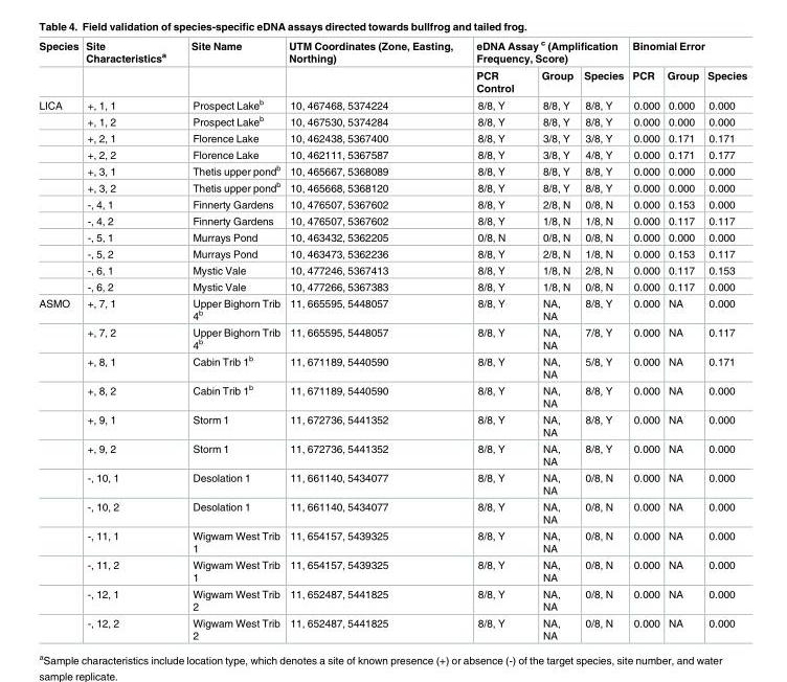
<table><thead><tr><td rowspan="2">Species</td><td rowspan="2">Site Characteristics<sup>a</sup></td><td rowspan="2">Site Name</td><td rowspan="2">UTM Coordinates (Zone, Easting, Northing)</td><td colspan="3">eDNA Assay <sup>c</sup> (Amplification Frequency, Score)</td><td colspan="3">Binomial Error</td></tr><tr><td>PCR Control</td><td>Group</td><td>Species</td><td>PCR</td><td>Group</td><td>Species</td></tr></thead><tbody><tr><td rowspan="12">LICA</td><td>+, 1, 1</td><td>Prospect Lake<sup>b</sup></td><td>10, 467468, 5374224</td><td>8/8, Y</td><td>8/8, Y</td><td>8/8, Y</td><td>0.000</td><td>0.000</td><td>0.000</td></tr><tr><td>+, 1, 2</td><td>Prospect Lake<sup>b</sup></td><td>10, 467530, 5374284</td><td>8/8, Y</td><td>8/8, Y</td><td>8/8, Y</td><td>0.000</td><td>0.000</td><td>0.000</td></tr><tr><td>+, 2, 1</td><td>Florence Lake</td><td>10, 462438, 5367400</td><td>8/8, Y</td><td>3/8, Y</td><td>3/8, Y</td><td>0.000</td><td>0.171</td><td>0.171</td></tr><tr><td>+, 2, 2</td><td>Florence Lake</td><td>10, 462111, 5367587</td><td>8/8, Y</td><td>3/8, Y</td><td>4/8, Y</td><td>0.000</td><td>0.171</td><td>0.177</td></tr><tr><td>+, 3, 1</td><td>Thetis upper pond<sup>b</sup></td><td>10, 465667, 5368089</td><td>8/8, Y</td><td>8/8, Y</td><td>8/8, Y</td><td>0.000</td><td>0.000</td><td>0.000</td></tr><tr><td>+, 3, 2</td><td>Thetis upper pond<sup>b</sup></td><td>10, 465668, 5368120</td><td>8/8, Y</td><td>8/8, Y</td><td>8/8, Y</td><td>0.000</td><td>0.000</td><td>0.000</td></tr><tr><td>-, 4, 1</td><td>Finnerty Gardens</td><td>10, 476507, 5367602</td><td>8/8, Y</td><td>2/8, N</td><td>0/8, N</td><td>0.000</td><td>0.153</td><td>0.000</td></tr><tr><td>-, 4, 2</td><td>Finnerty Gardens</td><td>10, 476507, 5367602</td><td>8/8, Y</td><td>1/8, N</td><td>1/8, N</td><td>0.000</td><td>0.117</td><td>0.117</td></tr><tr><td>-, 5, 1</td><td>Murrays Pond</td><td>10, 463432, 5362205</td><td>0/8, N</td><td>0/8, N</td><td>0/8, N</td><td>0.000</td><td>0.000</td><td>0.000</td></tr><tr><td>-, 5, 2</td><td>Murrays Pond</td><td>10, 463473, 5362236</td><td>8/8, Y</td><td>2/8, N</td><td>1/8, N</td><td>0.000</td><td>0.153</td><td>0.117</td></tr><tr><td>-, 6, 1</td><td>Mystic Vale</td><td>10, 477246, 5367413</td><td>8/8, Y</td><td>1/8, N</td><td>2/8, N</td><td>0.000</td><td>0.117</td><td>0.153</td></tr><tr><td>-, 6, 2</td><td>Mystic Vale</td><td>10, 477266, 5367383</td><td>8/8, Y</td><td>1/8, N</td><td>0/8, N</td><td>0.000</td><td>0.117</td><td>0.000</td></tr><tr><td rowspan="12">ASMO</td><td>+, 7, 1</td><td>Upper Bighorn Trib 4<sup>b</sup></td><td>11, 665595, 5448057</td><td>8/8, Y</td><td>NA, NA</td><td>8/8, Y</td><td>0.000</td><td>NA</td><td>0.000</td></tr><tr><td>+, 7, 2</td><td>Upper Bighorn Trib 4<sup>b</sup></td><td>11, 665595, 5448057</td><td>8/8, Y</td><td>NA, NA</td><td>7/8, Y</td><td>0.000</td><td>NA</td><td>0.117</td></tr><tr><td>+, 8, 1</td><td>Cabin Trib 1<sup>b</sup></td><td>11, 671189, 5440590</td><td>8/8, Y</td><td>NA, NA</td><td>5/8, Y</td><td>0.000</td><td>NA</td><td>0.171</td></tr><tr><td>+, 8, 2</td><td>Cabin Trib 1<sup>b</sup></td><td>11, 671189, 5440590</td><td>8/8, Y</td><td>NA, NA</td><td>8/8, Y</td><td>0.000</td><td>NA</td><td>0.000</td></tr><tr><td>+, 9, 1</td><td>Storm 1</td><td>11, 672736, 5441352</td><td>8/8, Y</td><td>NA, NA</td><td>8/8, Y</td><td>0.000</td><td>NA</td><td>0.000</td></tr><tr><td>+, 9, 2</td><td>Storm 1</td><td>11, 672736, 5441352</td><td>8/8, Y</td><td>NA, NA</td><td>8/8, Y</td><td>0.000</td><td>NA</td><td>0.000</td></tr><tr><td>-, 10, 1</td><td>Desolation 1</td><td>11, 661140, 5434077</td><td>8/8, Y</td><td>NA, NA</td><td>0/8, N</td><td>0.000</td><td>NA</td><td>0.000</td></tr><tr><td>-, 10, 2</td><td>Desolation 1</td><td>11, 661140, 5434077</td><td>8/8, Y</td><td>NA, NA</td><td>0/8, N</td><td>0.000</td><td>NA</td><td>0.000</td></tr><tr><td>-, 11, 1</td><td>Wigwam West Trib 1</td><td>11, 654157, 5439325</td><td>8/8, Y</td><td>NA, NA</td><td>0/8, N</td><td>0.000</td><td>NA</td><td>0.000</td></tr><tr><td>-, 11, 2</td><td>Wigwam West Trib 1</td><td>11, 654157, 5439325</td><td>8/8, Y</td><td>NA, NA</td><td>0/8, N</td><td>0.000</td><td>NA</td><td>0.000</td></tr><tr><td>-, 12, 1</td><td>Wigwam West Trib 2</td><td>11, 652487, 5441825</td><td>8/8, Y</td><td>NA, NA</td><td>0/8, N</td><td>0.000</td><td>NA</td><td>0.000</td></tr><tr><td>-, 12, 2</td><td>Wigwam West Trib 2</td><td>11, 652487, 5441825</td><td>8/8, Y</td><td>NA, NA</td><td>0/8, N</td><td>0.000</td><td>NA</td><td>0.000</td></tr></tbody></table>